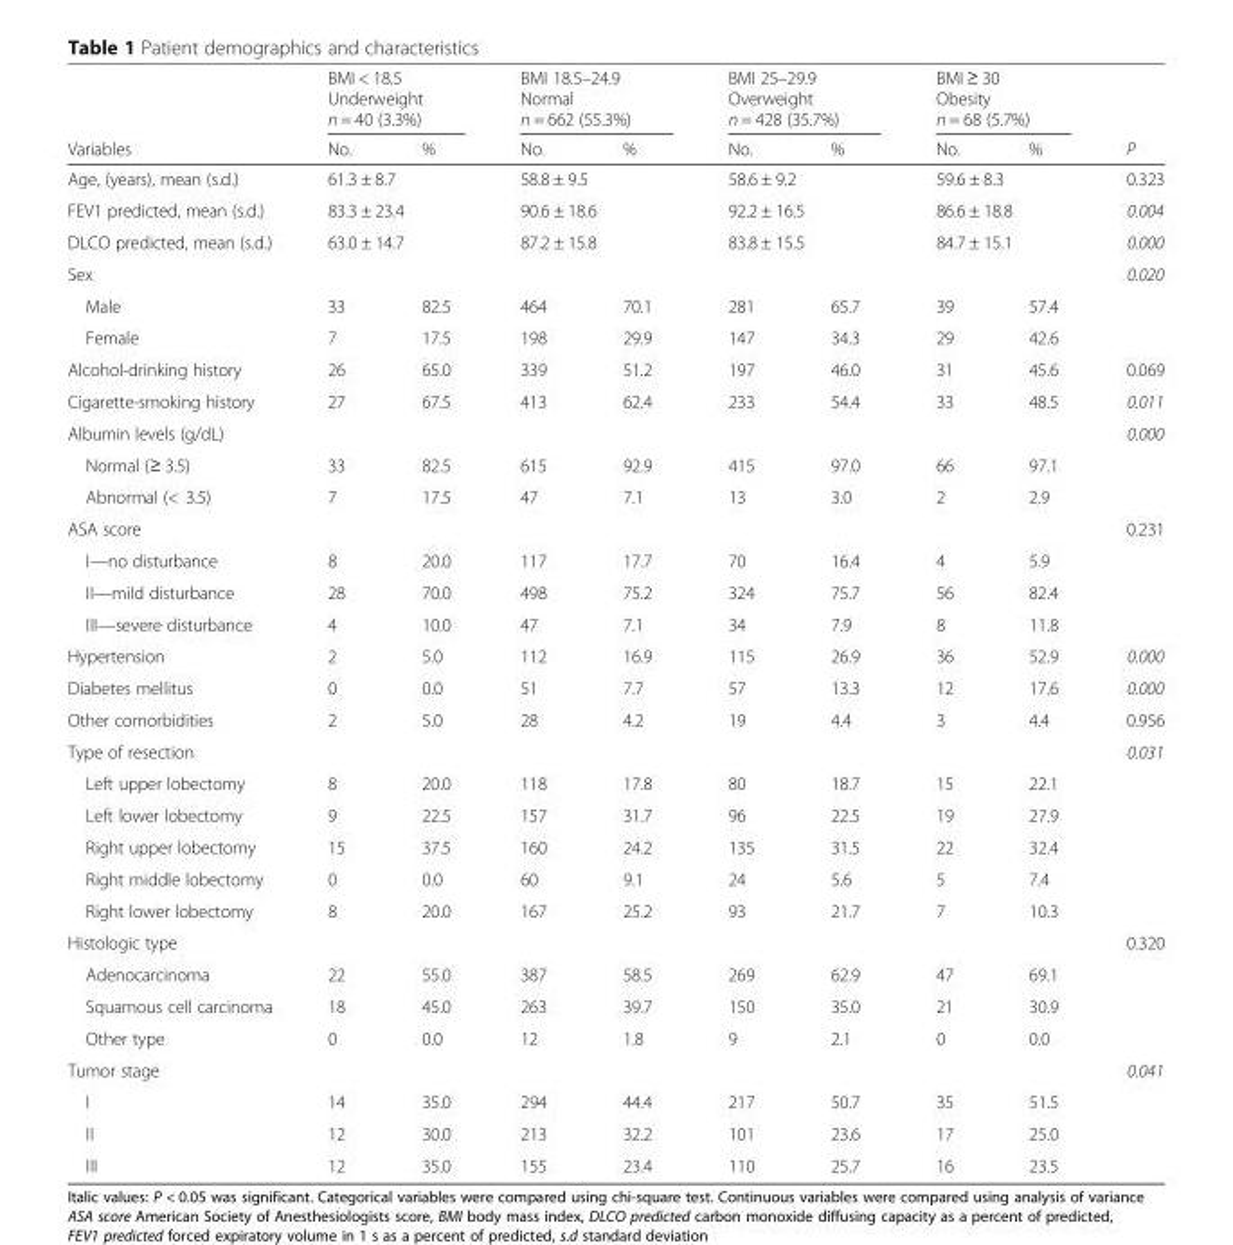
<table><thead><tr><td rowspan="4">Variables</td><td rowspan="3" colspan="2">BMI &lt; 18.5 Underweight n = 40 (3.3%)</td><td rowspan="3" colspan="2">BMI 18.5–24.9 Normal n = 662 (55.3%)</td><td rowspan="3" colspan="2">BMI 25–29.9 Overweight n = 428 (35.7%)</td><td rowspan="3" colspan="2">BMI ≥ 30 Obesity n = 68 (5.7%)</td><td rowspan="4">P</td></tr><tr></tr><tr></tr><tr><td>No.</td><td>%</td><td>No.</td><td>%</td><td>No.</td><td>%</td><td>No.</td><td>%</td></tr></thead><tbody><tr><td>Age, (years), mean (s.d.)</td><td colspan="2">61.3 ± 8.7</td><td colspan="2">58.8 ± 9.5</td><td colspan="2">58.6 ± 9.2</td><td colspan="2">59.6 ± 8.3</td><td>0.323</td></tr><tr><td>FEV1 predicted, mean (s.d.)</td><td colspan="2">83.3 ± 23.4</td><td colspan="2">90.6 ± 18.6</td><td colspan="2">92.2 ± 16.5</td><td colspan="2">86.6 ± 18.8</td><td>0.004</td></tr><tr><td>DLCO predicted, mean (s.d.)</td><td colspan="2">63.0 ± 14.7</td><td colspan="2">87.2 ± 15.8</td><td colspan="2">83.8 ± 15.5</td><td colspan="2">84.7 ± 15.1</td><td>0.000</td></tr><tr><td>Sex</td><td></td><td></td><td></td><td></td><td></td><td></td><td></td><td></td><td>0.020</td></tr><tr><td>Male</td><td>33</td><td>82.5</td><td>464</td><td>70.1</td><td>281</td><td>65.7</td><td>39</td><td>57.4</td><td></td></tr><tr><td>Female</td><td>7</td><td>17.5</td><td>198</td><td>29.9</td><td>147</td><td>34.3</td><td>29</td><td>42.6</td><td></td></tr><tr><td>Alcohol-drinking history</td><td>26</td><td>65.0</td><td>339</td><td>51.2</td><td>197</td><td>46.0</td><td>31</td><td>45.6</td><td>0.069</td></tr><tr><td>Cigarette-smoking history</td><td>27</td><td>67.5</td><td>413</td><td>62.4</td><td>233</td><td>54.4</td><td>33</td><td>48.5</td><td>0.011</td></tr><tr><td>Albumin levels (g/dL)</td><td></td><td></td><td></td><td></td><td></td><td></td><td></td><td></td><td>0.000</td></tr><tr><td>Normal (≥ 3.5)</td><td>33</td><td>82.5</td><td>615</td><td>92.9</td><td>415</td><td>97.0</td><td>66</td><td>97.1</td><td></td></tr><tr><td>Abnormal (&lt; 3.5)</td><td>7</td><td>17.5</td><td>47</td><td>7.1</td><td>13</td><td>3.0</td><td>2</td><td>2.9</td><td></td></tr><tr><td>ASA score</td><td></td><td></td><td></td><td></td><td></td><td></td><td></td><td></td><td>0.231</td></tr><tr><td>I—no disturbance</td><td>8</td><td>20.0</td><td>117</td><td>17.7</td><td>70</td><td>16.4</td><td>4</td><td>5.9</td><td></td></tr><tr><td>II—mild disturbance</td><td>28</td><td>70.0</td><td>498</td><td>75.2</td><td>324</td><td>75.7</td><td>56</td><td>82.4</td><td></td></tr><tr><td>III—severe disturbance</td><td>4</td><td>10.0</td><td>47</td><td>7.1</td><td>34</td><td>7.9</td><td>8</td><td>11.8</td><td></td></tr><tr><td>Hypertension</td><td>2</td><td>5.0</td><td>112</td><td>16.9</td><td>115</td><td>26.9</td><td>36</td><td>52.9</td><td>0.000</td></tr><tr><td>Diabetes mellitus</td><td>0</td><td>0.0</td><td>51</td><td>7.7</td><td>57</td><td>13.3</td><td>12</td><td>17.6</td><td>0.000</td></tr><tr><td>Other comorbidities</td><td>2</td><td>5.0</td><td>28</td><td>4.2</td><td>19</td><td>4.4</td><td>3</td><td>4.4</td><td>0.956</td></tr><tr><td>Type of resection</td><td></td><td></td><td></td><td></td><td></td><td></td><td></td><td></td><td>0.031</td></tr><tr><td>Left upper lobectomy</td><td>8</td><td>20.0</td><td>118</td><td>17.8</td><td>80</td><td>18.7</td><td>15</td><td>22.1</td><td></td></tr><tr><td>Left lower lobectomy</td><td>9</td><td>22.5</td><td>157</td><td>31.7</td><td>96</td><td>22.5</td><td>19</td><td>27.9</td><td></td></tr><tr><td>Right upper lobectomy</td><td>15</td><td>37.5</td><td>160</td><td>24.2</td><td>135</td><td>31.5</td><td>22</td><td>32.4</td><td></td></tr><tr><td>Right middle lobectomy</td><td>0</td><td>0.0</td><td>60</td><td>9.1</td><td>24</td><td>5.6</td><td>5</td><td>7.4</td><td></td></tr><tr><td>Right lower lobectomy</td><td>8</td><td>20.0</td><td>167</td><td>25.2</td><td>93</td><td>21.7</td><td>7</td><td>10.3</td><td></td></tr><tr><td>Histologic type</td><td></td><td></td><td></td><td></td><td></td><td></td><td></td><td></td><td>0.320</td></tr><tr><td>Adenocarcinoma</td><td>22</td><td>55.0</td><td>387</td><td>58.5</td><td>269</td><td>62.9</td><td>47</td><td>69.1</td><td></td></tr><tr><td>Squamous cell carcinoma</td><td>18</td><td>45.0</td><td>263</td><td>39.7</td><td>150</td><td>35.0</td><td>21</td><td>30.9</td><td></td></tr><tr><td>Other type</td><td>0</td><td>0.0</td><td>12</td><td>1.8</td><td>9</td><td>2.1</td><td>0</td><td>0.0</td><td></td></tr><tr><td>Tumor stage</td><td></td><td></td><td></td><td></td><td></td><td></td><td></td><td></td><td>0.041</td></tr><tr><td>I</td><td>14</td><td>35.0</td><td>294</td><td>44.4</td><td>217</td><td>50.7</td><td>35</td><td>51.5</td><td></td></tr><tr><td>II</td><td>12</td><td>30.0</td><td>213</td><td>32.2</td><td>101</td><td>23.6</td><td>17</td><td>25.0</td><td></td></tr><tr><td>III</td><td>12</td><td>35.0</td><td>155</td><td>23.4</td><td>110</td><td>25.7</td><td>16</td><td>23.5</td><td></td></tr></tbody></table>